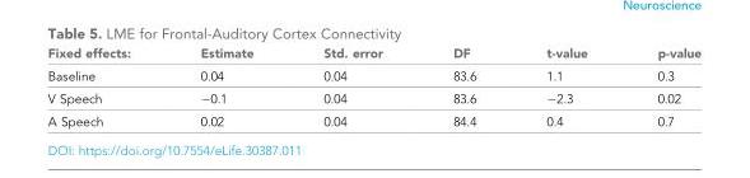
<table><thead><tr><td>Fixed effects:</td><td>Estimate</td><td>Std. error</td><td>DF</td><td>t-value</td><td>p-value</td></tr></thead><tbody><tr><td>Baseline</td><td>0.04</td><td>0.04</td><td>83.6</td><td>1.1</td><td>0.3</td></tr><tr><td>V Speech</td><td>−0.1</td><td>0.04</td><td>83.6</td><td>−2.3</td><td>0.02</td></tr><tr><td>A Speech</td><td>0.02</td><td>0.04</td><td>84.4</td><td>0.4</td><td>0.7</td></tr></tbody></table>